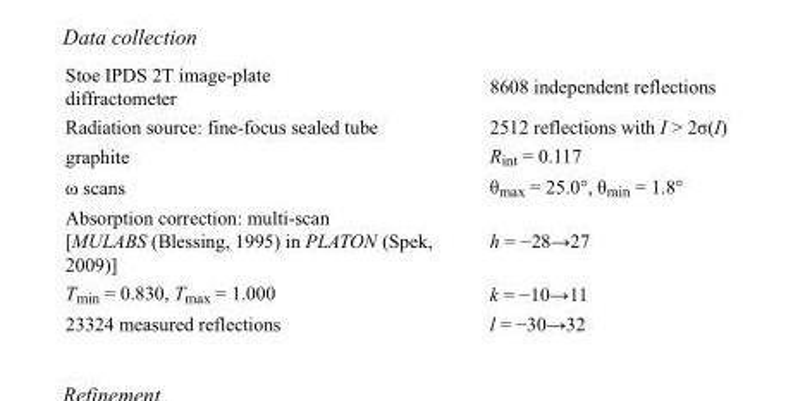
<table><tbody><tr><td>Stoe IPDS 2T image-plate diffractometer</td><td>8608 independent reflections</td></tr><tr><td>Radiation source: fine-focus sealed tube</td><td>2512 reflections with I &gt; 2σ(I)</td></tr><tr><td>graphite</td><td>R<sub>int</sub> = 0.117</td></tr><tr><td>ω scans</td><td>θ<sub>max</sub> = 25.0°, θ<sub>min</sub> = 1.8°</td></tr><tr><td>Absorption correction: multi-scan [MULABS (Blessing, 1995) in PLATON (Spek, 2009)]</td><td>h = −28→27</td></tr><tr><td>T<sub>min</sub> = 0.830, T<sub>max</sub> = 1.000</td><td>k = −10→11</td></tr><tr><td>23324 measured reflections</td><td>l = −30→32</td></tr></tbody></table>